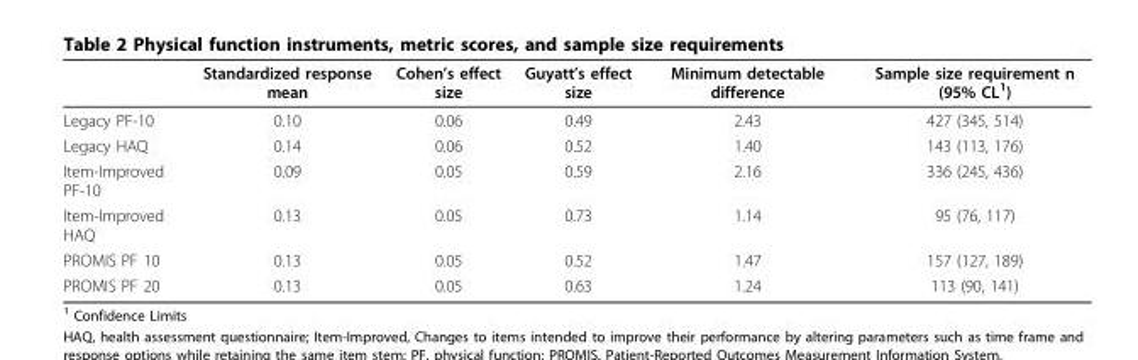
<table><thead><tr><td></td><td>Standardized response mean</td><td>Cohen’s effect size</td><td>Guyatt’s effect size</td><td>Minimum detectable difference</td><td>Sample size requirement n (95% CL<sup>1</sup>)</td></tr></thead><tbody><tr><td>Legacy PF-10</td><td>0.10</td><td>0.06</td><td>0.49</td><td>2.43</td><td>427 (345, 514)</td></tr><tr><td>Legacy HAQ</td><td>0.14</td><td>0.06</td><td>0.52</td><td>1.40</td><td>143 (113, 176)</td></tr><tr><td>Item-Improved PF-10</td><td>0.09</td><td>0.05</td><td>0.59</td><td>2.16</td><td>336 (245, 436)</td></tr><tr><td>Item-Improved HAQ</td><td>0.13</td><td>0.05</td><td>0.73</td><td>1.14</td><td>95 (76, 117)</td></tr><tr><td>PROMIS PF 10</td><td>0.13</td><td>0.05</td><td>0.52</td><td>1.47</td><td>157 (127, 189)</td></tr><tr><td>PROMIS PF 20</td><td>0.13</td><td>0.05</td><td>0.63</td><td>1.24</td><td>113 (90, 141)</td></tr></tbody></table>